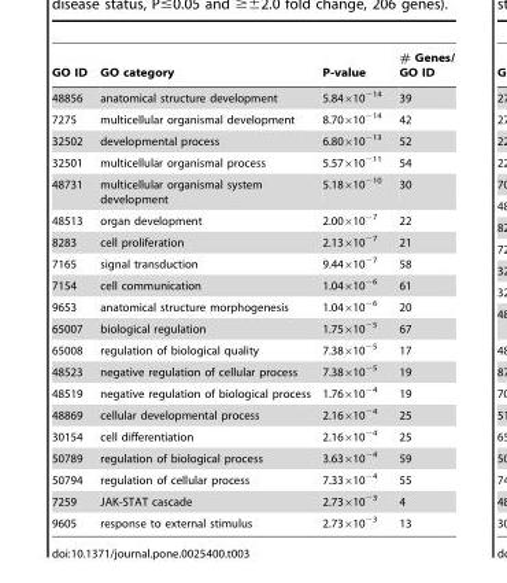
<table><thead><tr><td>GO ID</td><td>GO category</td><td>P-value</td><td># Genes/ GO ID</td></tr></thead><tbody><tr><td>48856</td><td>anatomical structure development</td><td>5.84×10<sup>−14</sup></td><td>39</td></tr><tr><td>7275</td><td>multicellular organismal development</td><td>8.70×10<sup>−14</sup></td><td>42</td></tr><tr><td>32502</td><td>developmental process</td><td>6.80×10<sup>−13</sup></td><td>52</td></tr><tr><td>32501</td><td>multicellular organismal process</td><td>5.57×10<sup>−11</sup></td><td>54</td></tr><tr><td>48731</td><td>multicellular organismal system development</td><td>5.18×10<sup>−10</sup></td><td>30</td></tr><tr><td>48513</td><td>organ development</td><td>2.00×10<sup>−7</sup></td><td>22</td></tr><tr><td>8283</td><td>cell proliferation</td><td>2.13×10<sup>−7</sup></td><td>21</td></tr><tr><td>7165</td><td>signal transduction</td><td>9.44×10<sup>−7</sup></td><td>58</td></tr><tr><td>7154</td><td>cell communication</td><td>1.04×10<sup>−6</sup></td><td>61</td></tr><tr><td>9653</td><td>anatomical structure morphogenesis</td><td>1.04×10<sup>−6</sup></td><td>20</td></tr><tr><td>65007</td><td>biological regulation</td><td>1.75×10<sup>−5</sup></td><td>67</td></tr><tr><td>65008</td><td>regulation of biological quality</td><td>7.38×10<sup>−5</sup></td><td>17</td></tr><tr><td>48523</td><td>negative regulation of cellular process</td><td>7.38×10<sup>−5</sup></td><td>19</td></tr><tr><td>48519</td><td>negative regulation of biological process</td><td>1.76×10<sup>−4</sup></td><td>19</td></tr><tr><td>48869</td><td>cellular developmental process</td><td>2.16×10<sup>−4</sup></td><td>25</td></tr><tr><td>30154</td><td>cell differentiation</td><td>2.16×10<sup>−4</sup></td><td>25</td></tr><tr><td>50789</td><td>regulation of biological process</td><td>3.63×10<sup>−4</sup></td><td>59</td></tr><tr><td>50794</td><td>regulation of cellular process</td><td>7.33×10<sup>−4</sup></td><td>55</td></tr><tr><td>7259</td><td>JAK-STAT cascade</td><td>2.73×10<sup>−3</sup></td><td>4</td></tr><tr><td>9605</td><td>response to external stimulus</td><td>2.73×10<sup>−3</sup></td><td>13</td></tr></tbody></table>